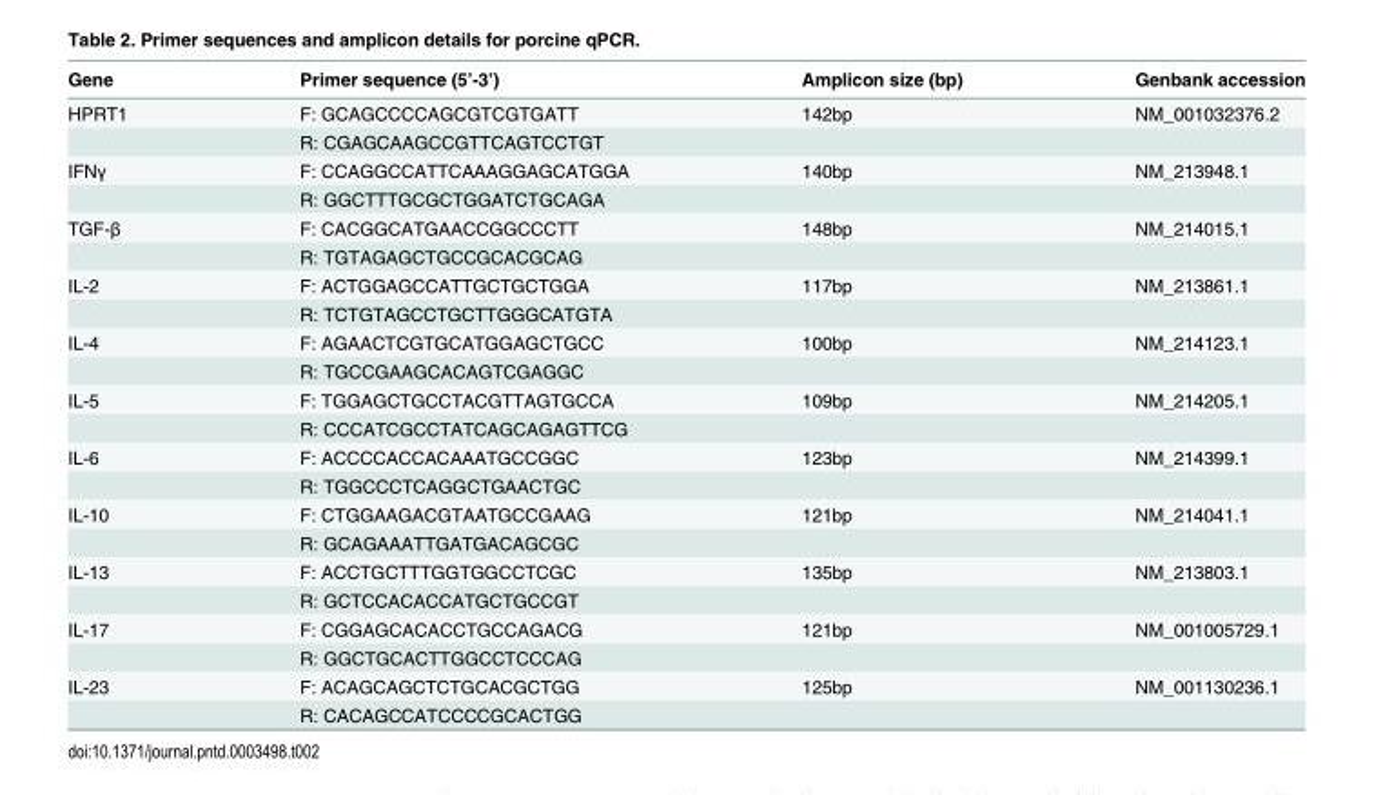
<table><thead><tr><td>Gene</td><td>Primer sequence (5’-3’)</td><td>Amplicon size (bp)</td><td>Genbank accession</td></tr></thead><tbody><tr><td rowspan="2">HPRT1</td><td>F: GCAGCCCCAGCGTCGTGATT</td><td>142bp</td><td>NM_001032376.2</td></tr><tr><td>R: CGAGCAAGCCGTTCAGTCCTGT</td><td></td><td></td></tr><tr><td rowspan="2">IFNγ</td><td>F: CCAGGCCATTCAAAGGAGCATGGA</td><td>140bp</td><td>NM_213948.1</td></tr><tr><td>R: GGCTTTGCGCTGGATCTGCAGA</td><td></td><td></td></tr><tr><td rowspan="2">TGF-β</td><td>F: CACGGCATGAACCGGCCCTT</td><td>148bp</td><td>NM_214015.1</td></tr><tr><td>R: TGTAGAGCTGCCGCACGCAG</td><td></td><td></td></tr><tr><td rowspan="2">IL-2</td><td>F: ACTGGAGCCATTGCTGCTGGA</td><td>117bp</td><td>NM_213861.1</td></tr><tr><td>R: TCTGTAGCCTGCTTGGGCATGTA</td><td></td><td></td></tr><tr><td rowspan="2">IL-4</td><td>F: AGAACTCGTGCATGGAGCTGCC</td><td>100bp</td><td>NM_214123.1</td></tr><tr><td>R: TGCCGAAGCACAGTCGAGGC</td><td></td><td></td></tr><tr><td rowspan="2">IL-5</td><td>F: TGGAGCTGCCTACGTTAGTGCCA</td><td>109bp</td><td>NM_214205.1</td></tr><tr><td>R: CCCATCGCCTATCAGCAGAGTTCG</td><td></td><td></td></tr><tr><td rowspan="2">IL-6</td><td>F: ACCCCACCACAAATGCCGGC</td><td>123bp</td><td>NM_214399.1</td></tr><tr><td>R: TGGCCCTCAGGCTGAACTGC</td><td></td><td></td></tr><tr><td rowspan="2">IL-10</td><td>F: CTGGAAGACGTAATGCCGAAG</td><td>121bp</td><td>NM_214041.1</td></tr><tr><td>R: GCAGAAATTGATGACAGCGC</td><td></td><td></td></tr><tr><td rowspan="2">IL-13</td><td>F: ACCTGCTTTGGTGGCCTCGC</td><td>135bp</td><td>NM_213803.1</td></tr><tr><td>R: GCTCCACACCATGCTGCCGT</td><td></td><td></td></tr><tr><td rowspan="2">IL-17</td><td>F: CGGAGCACACCTGCCAGACG</td><td>121bp</td><td>NM_001005729.1</td></tr><tr><td>R: GGCTGCACTTGGCCTCCCAG</td><td></td><td></td></tr><tr><td rowspan="2">IL-23</td><td>F: ACAGCAGCTCTGCACGCTGG</td><td>125bp</td><td>NM_001130236.1</td></tr><tr><td>R: CACAGCCATCCCCGCACTGG</td><td></td><td></td></tr></tbody></table>